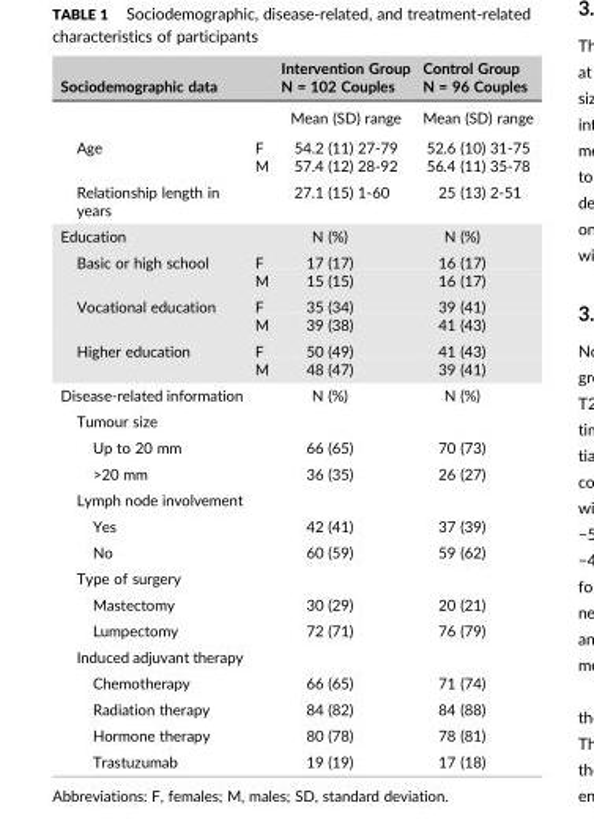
<table><thead><tr><td rowspan="2">Sociodemographic data</td><td rowspan="2"></td><td rowspan="2">Intervention Group N = 102 Couples</td><td rowspan="2">Control Group N = 96 Couples</td></tr><tr></tr></thead><tbody><tr><td></td><td></td><td>Mean (SD) range</td><td>Mean (SD) range</td></tr><tr><td rowspan="2">Age</td><td>F</td><td>54.2 (11) 27‐79</td><td>52.6 (10) 31‐75</td></tr><tr><td>M</td><td>57.4 (12) 28‐92</td><td>56.4 (11) 35‐78</td></tr><tr><td>Relationship length in years</td><td></td><td>27.1 (15) 1‐60</td><td>25 (13) 2‐51</td></tr><tr><td>Education</td><td></td><td>N (%)</td><td>N (%)</td></tr><tr><td rowspan="2">Basic or high school</td><td>F</td><td>17 (17)</td><td>16 (17)</td></tr><tr><td>M</td><td>15 (15)</td><td>16 (17)</td></tr><tr><td rowspan="2">Vocational education</td><td>F</td><td>35 (34)</td><td>39 (41)</td></tr><tr><td>M</td><td>39 (38)</td><td>41 (43)</td></tr><tr><td rowspan="2">Higher education</td><td>F</td><td>50 (49)</td><td>41 (43)</td></tr><tr><td>M</td><td>48 (47)</td><td>39 (41)</td></tr><tr><td>Disease‐related information</td><td></td><td>N (%)</td><td>N (%)</td></tr><tr><td colspan="4">Tumour size</td></tr><tr><td>Up to 20 mm</td><td></td><td>66 (65)</td><td>70 (73)</td></tr><tr><td>&gt;20 mm</td><td></td><td>36 (35)</td><td>26 (27)</td></tr><tr><td colspan="4">Lymph node involvement</td></tr><tr><td>Yes</td><td></td><td>42 (41)</td><td>37 (39)</td></tr><tr><td>No</td><td></td><td>60 (59)</td><td>59 (62)</td></tr><tr><td colspan="4">Type of surgery</td></tr><tr><td>Mastectomy</td><td></td><td>30 (29)</td><td>20 (21)</td></tr><tr><td>Lumpectomy</td><td></td><td>72 (71)</td><td>76 (79)</td></tr><tr><td colspan="4">Induced adjuvant therapy</td></tr><tr><td>Chemotherapy</td><td></td><td>66 (65)</td><td>71 (74)</td></tr><tr><td>Radiation therapy</td><td></td><td>84 (82)</td><td>84 (88)</td></tr><tr><td>Hormone therapy</td><td></td><td>80 (78)</td><td>78 (81)</td></tr><tr><td>Trastuzumab</td><td></td><td>19 (19)</td><td>17 (18)</td></tr></tbody></table>